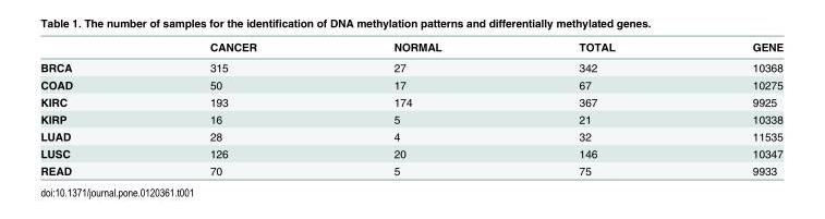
<table><thead><tr><td></td><td>CANCER</td><td>NORMAL</td><td>TOTAL</td><td>GENE</td></tr></thead><tbody><tr><td>BRCA</td><td>315</td><td>27</td><td>342</td><td>10368</td></tr><tr><td>COAD</td><td>50</td><td>17</td><td>67</td><td>10275</td></tr><tr><td>KIRC</td><td>193</td><td>174</td><td>367</td><td>9925</td></tr><tr><td>KIRP</td><td>16</td><td>5</td><td>21</td><td>10338</td></tr><tr><td>LUAD</td><td>28</td><td>4</td><td>32</td><td>11535</td></tr><tr><td>LUSC</td><td>126</td><td>20</td><td>146</td><td>10347</td></tr><tr><td>READ</td><td>70</td><td>5</td><td>75</td><td>9933</td></tr></tbody></table>